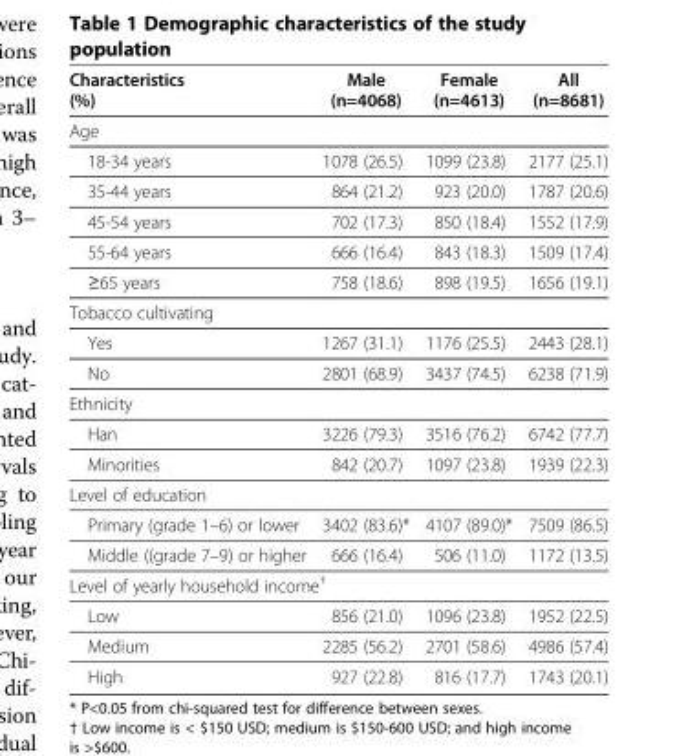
<table><thead><tr><td>Characteristics (%)</td><td>Male (n=4068)</td><td>Female (n=4613)</td><td>All (n=8681)</td></tr></thead><tbody><tr><td colspan="4">Age</td></tr><tr><td>18-34 years</td><td>1078 (26.5)</td><td>1099 (23.8)</td><td>2177 (25.1)</td></tr><tr><td>35-44 years</td><td>864 (21.2)</td><td>923 (20.0)</td><td>1787 (20.6)</td></tr><tr><td>45-54 years</td><td>702 (17.3)</td><td>850 (18.4)</td><td>1552 (17.9)</td></tr><tr><td>55-64 years</td><td>666 (16.4)</td><td>843 (18.3)</td><td>1509 (17.4)</td></tr><tr><td>≥65 years</td><td>758 (18.6)</td><td>898 (19.5)</td><td>1656 (19.1)</td></tr><tr><td colspan="4">Tobacco cultivating</td></tr><tr><td>Yes</td><td>1267 (31.1)</td><td>1176 (25.5)</td><td>2443 (28.1)</td></tr><tr><td>No</td><td>2801 (68.9)</td><td>3437 (74.5)</td><td>6238 (71.9)</td></tr><tr><td colspan="4">Ethnicity</td></tr><tr><td>Han</td><td>3226 (79.3)</td><td>3516 (76.2)</td><td>6742 (77.7)</td></tr><tr><td>Minorities</td><td>842 (20.7)</td><td>1097 (23.8)</td><td>1939 (22.3)</td></tr><tr><td colspan="4">Level of education</td></tr><tr><td>Primary (grade 1–6) or lower</td><td>3402 (83.6)*</td><td>4107 (89.0)*</td><td>7509 (86.5)</td></tr><tr><td>Middle ((grade 7–9) or higher</td><td>666 (16.4)</td><td>506 (11.0)</td><td>1172 (13.5)</td></tr><tr><td colspan="4">Level of yearly household income<sup>†</sup></td></tr><tr><td>Low</td><td>856 (21.0)</td><td>1096 (23.8)</td><td>1952 (22.5)</td></tr><tr><td>Medium</td><td>2285 (56.2)</td><td>2701 (58.6)</td><td>4986 (57.4)</td></tr><tr><td>High</td><td>927 (22.8)</td><td>816 (17.7)</td><td>1743 (20.1)</td></tr></tbody></table>